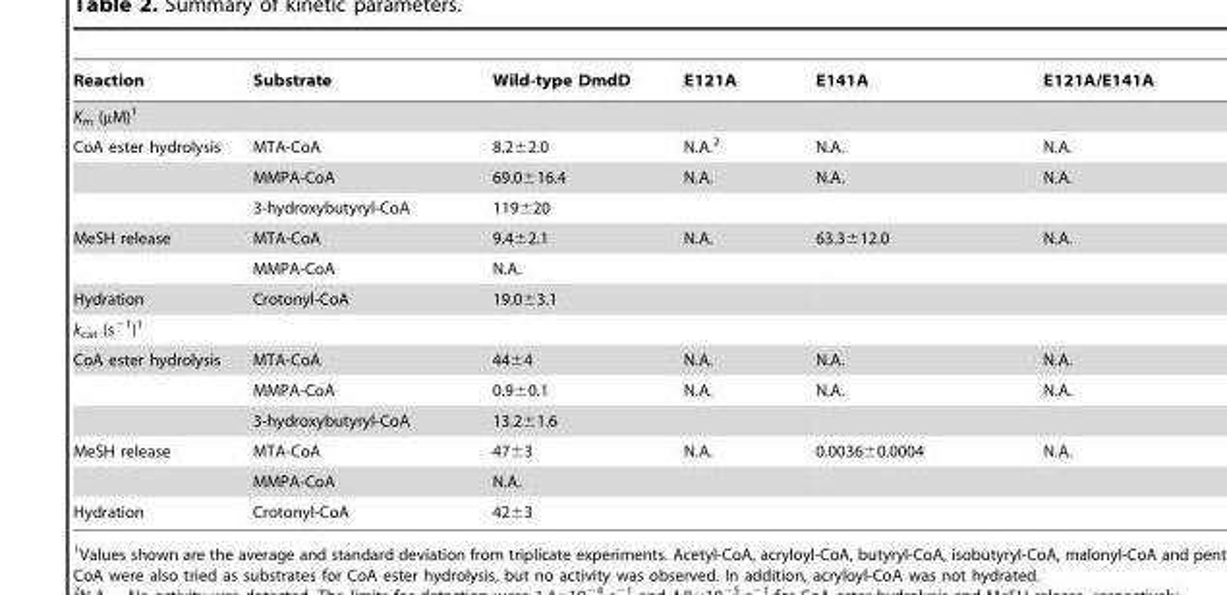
<table><thead><tr><td>Reaction</td><td>Substrate</td><td>Wild-type DmdD</td><td>E121A</td><td>E141A</td><td>E121A/E141A</td></tr></thead><tbody><tr><td colspan="6">K<sub>m</sub> (µM)<sup>1</sup></td></tr><tr><td rowspan="3">CoA ester hydrolysis</td><td>MTA-CoA</td><td>8.2±2.0</td><td>N.A.<sup>2</sup></td><td>N.A.</td><td>N.A.</td></tr><tr><td>MMPA-CoA</td><td>69.0±16.4</td><td>N.A.</td><td>N.A.</td><td>N.A.</td></tr><tr><td>3-hydroxybutyryl-CoA</td><td>119±20</td><td></td><td></td><td></td></tr><tr><td rowspan="2">MeSH release</td><td>MTA-CoA</td><td>9.4±2.1</td><td>N.A.</td><td>63.3±12.0</td><td>N.A.</td></tr><tr><td>MMPA-CoA</td><td>N.A.</td><td></td><td></td><td></td></tr><tr><td>Hydration</td><td>Crotonyl-CoA</td><td>19.0±3.1</td><td></td><td></td><td></td></tr><tr><td colspan="6">k<sub>cat</sub> (s<sup>−1</sup>)<sup>1</sup></td></tr><tr><td rowspan="3">CoA ester hydrolysis</td><td>MTA-CoA</td><td>44±4</td><td>N.A.</td><td>N.A.</td><td>N.A.</td></tr><tr><td>MMPA-CoA</td><td>0.9±0.1</td><td>N.A.</td><td>N.A.</td><td>N.A.</td></tr><tr><td>3-hydroxybutyryl-CoA</td><td>13.2±1.6</td><td></td><td></td><td></td></tr><tr><td rowspan="2">MeSH release</td><td>MTA-CoA</td><td>47±3</td><td>N.A.</td><td>0.0036±0.0004</td><td>N.A.</td></tr><tr><td>MMPA-CoA</td><td>N.A.</td><td></td><td></td><td></td></tr><tr><td>Hydration</td><td>Crotonyl-CoA</td><td>42±3</td><td></td><td></td><td></td></tr></tbody></table>